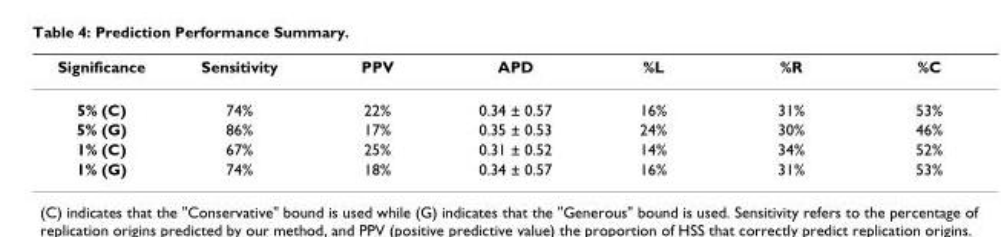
<table><thead><tr><td>Significance</td><td>Sensitivity</td><td>PPV</td><td>APD</td><td>%L</td><td>%R</td><td>%C</td></tr></thead><tbody><tr><td>5% (C)</td><td>74%</td><td>22%</td><td>0.34 ± 0.57</td><td>16%</td><td>31%</td><td>53%</td></tr><tr><td>5% (G)</td><td>86%</td><td>17%</td><td>0.35 ± 0.53</td><td>24%</td><td>30%</td><td>46%</td></tr><tr><td>1% (C)</td><td>67%</td><td>25%</td><td>0.31 ± 0.52</td><td>14%</td><td>34%</td><td>52%</td></tr><tr><td>1% (G)</td><td>74%</td><td>18%</td><td>0.34 ± 0.57</td><td>16%</td><td>31%</td><td>53%</td></tr></tbody></table>